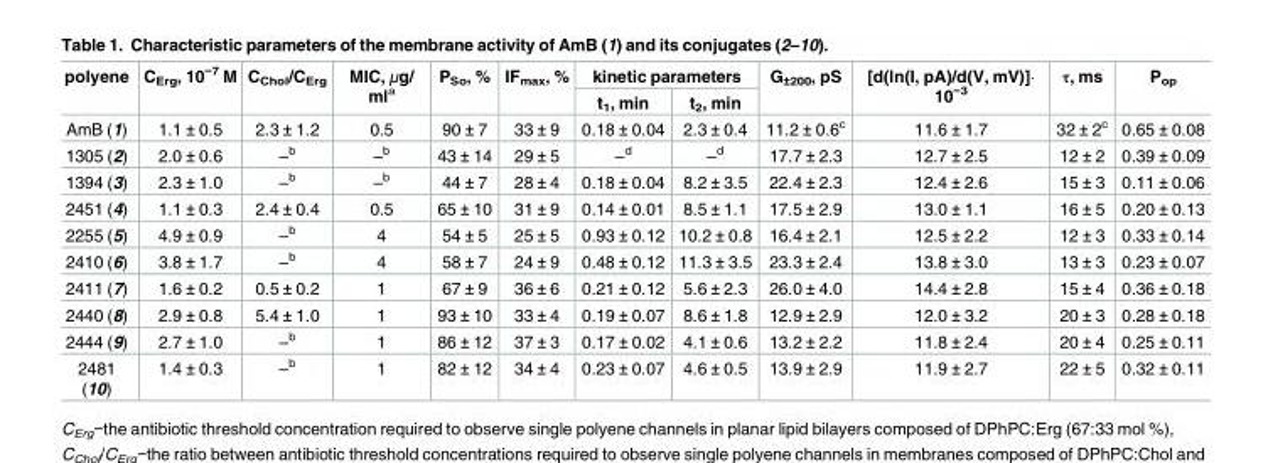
<table><thead><tr><td rowspan="2">polyene</td><td rowspan="2">C<sub>Erg</sub>, 10<sup>−7</sup> M</td><td rowspan="2">C<sub>Chol</sub>/C<sub>Erg</sub></td><td rowspan="2">MIC, μg/ ml<sup>a</sup></td><td rowspan="2">P<sub>So</sub>, %</td><td rowspan="2">IF<sub>max</sub>, %</td><td colspan="2">kinetic parameters</td><td rowspan="2">G<sub>±200</sub>, pS</td><td rowspan="2">[d(ln(I, pA)/d(V, mV)]� 10−3</td><td rowspan="2">τ, ms</td><td rowspan="2">P<sub>op</sub></td></tr><tr><td>t<sub>1</sub>, min</td><td>t<sub>2</sub>, min</td></tr></thead><tbody><tr><td>AmB (1)</td><td>1.1 ± 0.5</td><td>2.3 ± 1.2</td><td>0.5</td><td>90 ± 7</td><td>33 ± 9</td><td>0.18 ± 0.04</td><td>2.3 ± 0.4</td><td>11.2 ± 0.6<sup>c</sup></td><td>11.6 ± 1.7</td><td>32 ± 2<sup>c</sup></td><td>0.65 ± 0.08</td></tr><tr><td>1305 (2)</td><td>2.0 ± 0.6</td><td>–<sup>b</sup></td><td>–<sup>b</sup></td><td>43 ± 14</td><td>29 ± 5</td><td>–<sup>d</sup></td><td>–<sup>d</sup></td><td>17.7 ± 2.3</td><td>12.7 ± 2.5</td><td>12 ± 2</td><td>0.39 ± 0.09</td></tr><tr><td>1394 (3)</td><td>2.3 ± 1.0</td><td>–<sup>b</sup></td><td>–<sup>b</sup></td><td>44 ± 7</td><td>28 ± 4</td><td>0.18 ± 0.04</td><td>8.2 ± 3.5</td><td>22.4 ± 2.3</td><td>12.4 ± 2.6</td><td>15 ± 3</td><td>0.11 ± 0.06</td></tr><tr><td>2451 (4)</td><td>1.1 ± 0.3</td><td>2.4 ± 0.4</td><td>0.5</td><td>65 ± 10</td><td>31 ± 9</td><td>0.14 ± 0.01</td><td>8.5 ± 1.1</td><td>17.5 ± 2.9</td><td>13.0 ± 1.1</td><td>16 ± 5</td><td>0.20 ± 0.13</td></tr><tr><td>2255 (5)</td><td>4.9 ± 0.9</td><td>–<sup>b</sup></td><td>4</td><td>54 ± 5</td><td>25 ± 5</td><td>0.93 ± 0.12</td><td>10.2 ± 0.8</td><td>16.4 ± 2.1</td><td>12.5 ± 2.2</td><td>12 ± 3</td><td>0.33 ± 0.14</td></tr><tr><td>2410 (6)</td><td>3.8 ± 1.7</td><td>–<sup>b</sup></td><td>4</td><td>58 ± 7</td><td>24 ± 9</td><td>0.48 ± 0.12</td><td>11.3 ± 3.5</td><td>23.3 ± 2.4</td><td>13.8 ± 3.0</td><td>13 ± 3</td><td>0.23 ± 0.07</td></tr><tr><td>2411 (7)</td><td>1.6 ± 0.2</td><td>0.5 ± 0.2</td><td>1</td><td>67 ± 9</td><td>36 ± 6</td><td>0.21 ± 0.12</td><td>5.6 ± 2.3</td><td>26.0 ± 4.0</td><td>14.4 ± 2.8</td><td>15 ± 4</td><td>0.36 ± 0.18</td></tr><tr><td>2440 (8)</td><td>2.9 ± 0.8</td><td>5.4 ± 1.0</td><td>1</td><td>93 ± 10</td><td>33 ± 4</td><td>0.19 ± 0.07</td><td>8.6 ± 1.8</td><td>12.9 ± 2.9</td><td>12.0 ± 3.2</td><td>20 ± 3</td><td>0.28 ± 0.18</td></tr><tr><td>2444 (9)</td><td>2.7 ± 1.0</td><td>–<sup>b</sup></td><td>1</td><td>86 ± 12</td><td>37 ± 3</td><td>0.17 ± 0.02</td><td>4.1 ± 0.6</td><td>13.2 ± 2.2</td><td>11.8 ± 2.4</td><td>20 ± 4</td><td>0.25 ± 0.11</td></tr><tr><td>2481 (10)</td><td>1.4 ± 0.3</td><td>–<sup>b</sup></td><td>1</td><td>82 ± 12</td><td>34 ± 4</td><td>0.23 ± 0.07</td><td>4.6 ± 0.5</td><td>13.9 ± 2.9</td><td>11.9 ± 2.7</td><td>22 ± 5</td><td>0.32 ± 0.11</td></tr></tbody></table>